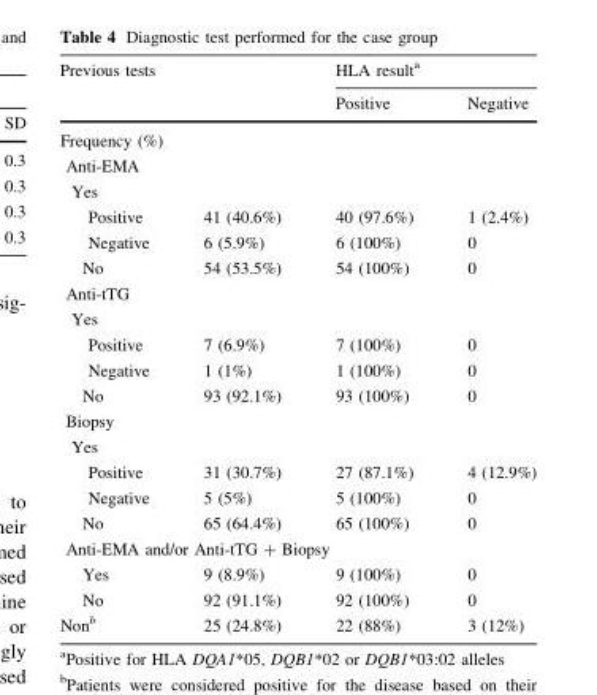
<table><thead><tr><td rowspan="2" colspan="2">Previous tests</td><td colspan="2">HLA result<sup>a</sup></td></tr><tr><td>Positive</td><td>Negative</td></tr></thead><tbody><tr><td colspan="4">Frequency (%)</td></tr><tr><td colspan="4">Anti-EMA</td></tr><tr><td colspan="4">Yes</td></tr><tr><td>Positive</td><td>41 (40.6%)</td><td>40 (97.6%)</td><td>1 (2.4%)</td></tr><tr><td>Negative</td><td>6 (5.9%)</td><td>6 (100%)</td><td>0</td></tr><tr><td>No</td><td>54 (53.5%)</td><td>54 (100%)</td><td>0</td></tr><tr><td colspan="4">Anti-tTG</td></tr><tr><td colspan="4">Yes</td></tr><tr><td>Positive</td><td>7 (6.9%)</td><td>7 (100%)</td><td>0</td></tr><tr><td>Negative</td><td>1 (1%)</td><td>1 (100%)</td><td>0</td></tr><tr><td>No</td><td>93 (92.1%)</td><td>93 (100%)</td><td>0</td></tr><tr><td colspan="4">Biopsy</td></tr><tr><td colspan="4">Yes</td></tr><tr><td>Positive</td><td>31 (30.7%)</td><td>27 (87.1%)</td><td>4 (12.9%)</td></tr><tr><td>Negative</td><td>5 (5%)</td><td>5 (100%)</td><td>0</td></tr><tr><td>No</td><td>65 (64.4%)</td><td>65 (100%)</td><td>0</td></tr><tr><td colspan="4">Anti-EMA and/or Anti-tTG + Biopsy</td></tr><tr><td>Yes</td><td>9 (8.9%)</td><td>9 (100%)</td><td>0</td></tr><tr><td>No</td><td>92 (91.1%)</td><td>92 (100%)</td><td>0</td></tr><tr><td>Non<sup>b</sup></td><td>25 (24.8%)</td><td>22 (88%)</td><td>3 (12%)</td></tr></tbody></table>